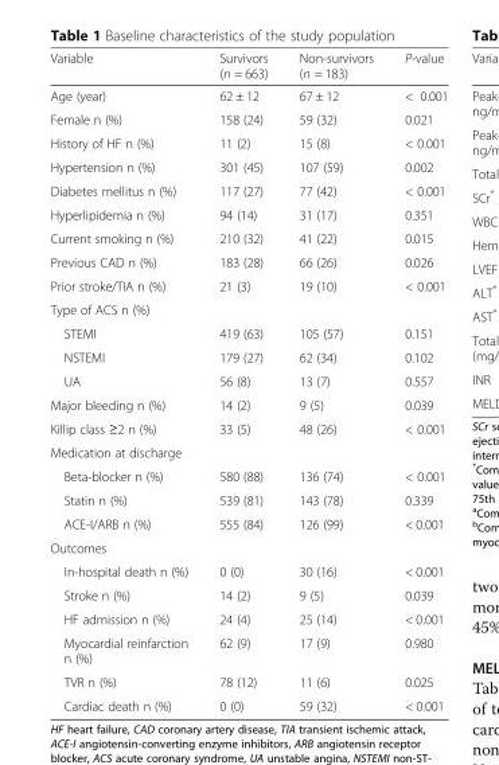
<table><thead><tr><td>Variable</td><td>Survivors (n = 663)</td><td>Non-survivors (n = 183)</td><td>P-value</td></tr></thead><tbody><tr><td>Age (year)</td><td>62 ± 12</td><td>67 ± 12</td><td>&lt; 0.001</td></tr><tr><td>Female n (%)</td><td>158 (24)</td><td>59 (32)</td><td>0.021</td></tr><tr><td>History of HF n (%)</td><td>11 (2)</td><td>15 (8)</td><td>&lt; 0.001</td></tr><tr><td>Hypertension n (%)</td><td>301 (45)</td><td>107 (59)</td><td>0.002</td></tr><tr><td>Diabetes mellitus n (%)</td><td>117 (27)</td><td>77 (42)</td><td>&lt; 0.001</td></tr><tr><td>Hyperlipidemia n (%)</td><td>94 (14)</td><td>31 (17)</td><td>0.351</td></tr><tr><td>Current smoking n (%)</td><td>210 (32)</td><td>41 (22)</td><td>0.015</td></tr><tr><td>Previous CAD n (%)</td><td>183 (28)</td><td>66 (26)</td><td>0.026</td></tr><tr><td>Prior stroke/TIA n (%)</td><td>21 (3)</td><td>19 (10)</td><td>&lt; 0.001</td></tr><tr><td colspan="4">Type of ACS n (%)</td></tr><tr><td>STEMI</td><td>419 (63)</td><td>105 (57)</td><td>0.151</td></tr><tr><td>NSTEMI</td><td>179 (27)</td><td>62 (34)</td><td>0.102</td></tr><tr><td>UA</td><td>56 (8)</td><td>13 (7)</td><td>0.557</td></tr><tr><td>Major bleeding n (%)</td><td>14 (2)</td><td>9 (5)</td><td>0.039</td></tr><tr><td>Killip class ≥2 n (%)</td><td>33 (5)</td><td>48 (26)</td><td>&lt; 0.001</td></tr><tr><td colspan="4">Medication at discharge</td></tr><tr><td>Beta-blocker n (%)</td><td>580 (88)</td><td>136 (74)</td><td>&lt; 0.001</td></tr><tr><td>Statin n (%)</td><td>539 (81)</td><td>143 (78)</td><td>0.339</td></tr><tr><td>ACE-I/ARB n (%)</td><td>555 (84)</td><td>126 (99)</td><td>&lt; 0.001</td></tr><tr><td colspan="4">Outcomes</td></tr><tr><td>In-hospital death n (%)</td><td>0 (0)</td><td>30 (16)</td><td>&lt; 0.001</td></tr><tr><td>Stroke n (%)</td><td>14 (2)</td><td>9 (5)</td><td>0.039</td></tr><tr><td>HF admission n (%)</td><td>24 (4)</td><td>25 (14)</td><td>&lt; 0.001</td></tr><tr><td>Myocardial reinfarction n (%)</td><td>62 (9)</td><td>17 (9)</td><td>0.980</td></tr><tr><td>TVR n (%)</td><td>78 (12)</td><td>11 (6)</td><td>0.025</td></tr><tr><td>Cardiac death n (%)</td><td>0 (0)</td><td>59 (32)</td><td>&lt; 0.001</td></tr></tbody></table>